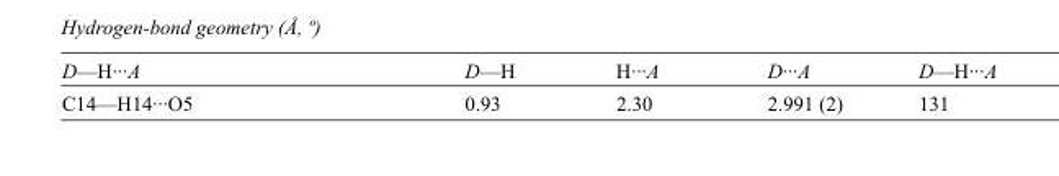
<table><tbody><tr><td>D—H···A</td><td>D—H</td><td>H···A</td><td>D···A</td><td>D—H···A</td></tr><tr><td>C14—H14···O5</td><td>0.93</td><td>2.30</td><td>2.991 (2)</td><td>131</td></tr></tbody></table>